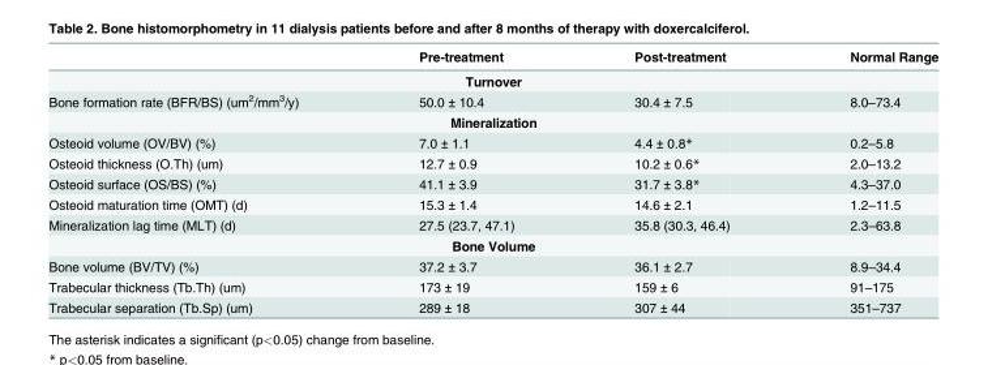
<table><thead><tr><td></td><td>Pre-treatment</td><td>Post-treatment</td><td>Normal Range</td></tr></thead><tbody><tr><td colspan="4">Turnover</td></tr><tr><td>Bone formation rate (BFR/BS) (um<sup>2</sup>/mm<sup>3</sup>/y)</td><td>50.0 ± 10.4</td><td>30.4 ± 7.5</td><td>8.0–73.4</td></tr><tr><td colspan="4">Mineralization</td></tr><tr><td>Osteoid volume (OV/BV) (%)</td><td>7.0 ± 1.1</td><td>4.4 ± 0.8*</td><td>0.2–5.8</td></tr><tr><td>Osteoid thickness (O.Th) (um)</td><td>12.7 ± 0.9</td><td>10.2 ± 0.6*</td><td>2.0–13.2</td></tr><tr><td>Osteoid surface (OS/BS) (%)</td><td>41.1 ± 3.9</td><td>31.7 ± 3.8*</td><td>4.3–37.0</td></tr><tr><td>Osteoid maturation time (OMT) (d)</td><td>15.3 ± 1.4</td><td>14.6 ± 2.1</td><td>1.2–11.5</td></tr><tr><td>Mineralization lag time (MLT) (d)</td><td>27.5 (23.7, 47.1)</td><td>35.8 (30.3, 46.4)</td><td>2.3–63.8</td></tr><tr><td colspan="4">Bone Volume</td></tr><tr><td>Bone volume (BV/TV) (%)</td><td>37.2 ± 3.7</td><td>36.1 ± 2.7</td><td>8.9–34.4</td></tr><tr><td>Trabecular thickness (Tb.Th) (um)</td><td>173 ± 19</td><td>159 ± 6</td><td>91–175</td></tr><tr><td>Trabecular separation (Tb.Sp) (um)</td><td>289 ± 18</td><td>307 ± 44</td><td>351–737</td></tr></tbody></table>